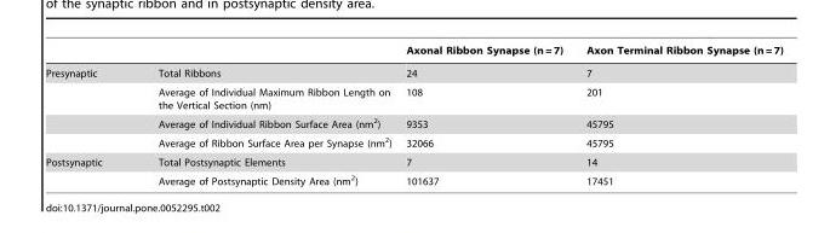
<table><thead><tr><td></td><td></td><td>Axonal Ribbon Synapse (n = 7)</td><td>Axon Terminal Ribbon Synapse (n = 7)</td></tr></thead><tbody><tr><td rowspan="4">Presynaptic</td><td>Total Ribbons</td><td>24</td><td>7</td></tr><tr><td>Average of Individual Maximum Ribbon Length on the Vertical Section (nm)</td><td>108</td><td>201</td></tr><tr><td>Average of Individual Ribbon Surface Area (nm<sup>2</sup>)</td><td>9353</td><td>45795</td></tr><tr><td>Average of Ribbon Surface Area per Synapse (nm<sup>2</sup>)</td><td>32066</td><td>45795</td></tr><tr><td rowspan="2">Postsynaptic</td><td>Total Postsynaptic Elements</td><td>7</td><td>14</td></tr><tr><td>Average of Postsynaptic Density Area (nm<sup>2</sup>)</td><td>101637</td><td>17451</td></tr></tbody></table>